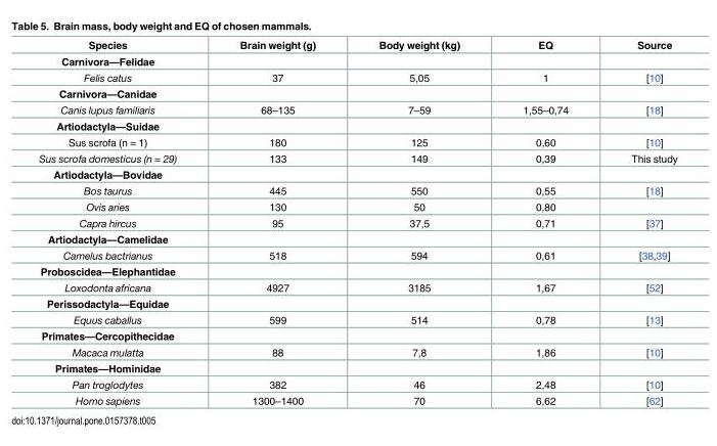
<table><thead><tr><td>Species</td><td>Brain weight (g)</td><td>Body weight (kg)</td><td>EQ</td><td>Source</td></tr></thead><tbody><tr><td colspan="5">Carnivora—Felidae</td></tr><tr><td>Felis catus</td><td>37</td><td>5,05</td><td>1</td><td>[10]</td></tr><tr><td colspan="5">Carnivora—Canidae</td></tr><tr><td>Canis lupus familiaris</td><td>68–135</td><td>7–59</td><td>1,55–0,74</td><td>[18]</td></tr><tr><td colspan="5">Artiodactyla—Suidae</td></tr><tr><td>Sus scrofa (n = 1)</td><td>180</td><td>125</td><td>0,60</td><td>[10]</td></tr><tr><td>Sus scrofa domesticus (n = 29)</td><td>133</td><td>149</td><td>0,39</td><td>This study</td></tr><tr><td colspan="5">Artiodactyla—Bovidae</td></tr><tr><td>Bos taurus</td><td>445</td><td>550</td><td>0,55</td><td>[18]</td></tr><tr><td>Ovis aries</td><td>130</td><td>50</td><td>0,80</td><td></td></tr><tr><td>Capra hircus</td><td>95</td><td>37,5</td><td>0,71</td><td>[37]</td></tr><tr><td colspan="5">Artiodactyla—Camelidae</td></tr><tr><td>Camelus bactrianus</td><td>518</td><td>594</td><td>0,61</td><td>[38,39]</td></tr><tr><td colspan="5">Proboscidea—Elephantidae</td></tr><tr><td>Loxodonta africana</td><td>4927</td><td>3185</td><td>1,67</td><td>[52]</td></tr><tr><td colspan="5">Perissodactyla—Equidae</td></tr><tr><td>Equus caballus</td><td>599</td><td>514</td><td>0,78</td><td>[13]</td></tr><tr><td colspan="5">Primates—Cercopithecidae</td></tr><tr><td>Macaca mulatta</td><td>88</td><td>7,8</td><td>1,86</td><td>[10]</td></tr><tr><td colspan="5">Primates—Hominidae</td></tr><tr><td>Pan troglodytes</td><td>382</td><td>46</td><td>2,48</td><td>[10]</td></tr><tr><td>Homo sapiens</td><td>1300–1400</td><td>70</td><td>6,62</td><td>[62]</td></tr></tbody></table>